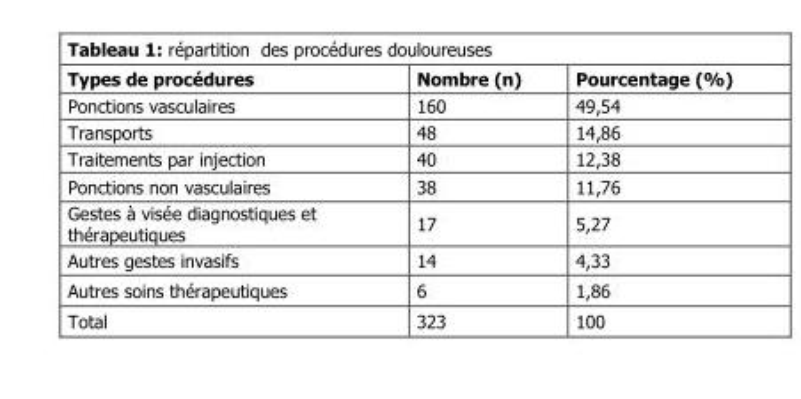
<table><thead><tr><td>Types de procédures</td><td>Nombre (n)</td><td>Pourcentage (%)</td></tr></thead><tbody><tr><td>Ponctions vasculaires</td><td>160</td><td>49,54</td></tr><tr><td>Transports</td><td>48</td><td>14,86</td></tr><tr><td>Traitements par injection</td><td>40</td><td>12,38</td></tr><tr><td>Ponctions non vasculaires</td><td>38</td><td>11,76</td></tr><tr><td>Gestes à visée diagnostiques et thérapeutiques</td><td>17</td><td>5,27</td></tr><tr><td>Autres gestes invasifs</td><td>14</td><td>4,33</td></tr><tr><td>Autres soins thérapeutiques</td><td>6</td><td>1,86</td></tr><tr><td>Total</td><td>323</td><td>100</td></tr></tbody></table>